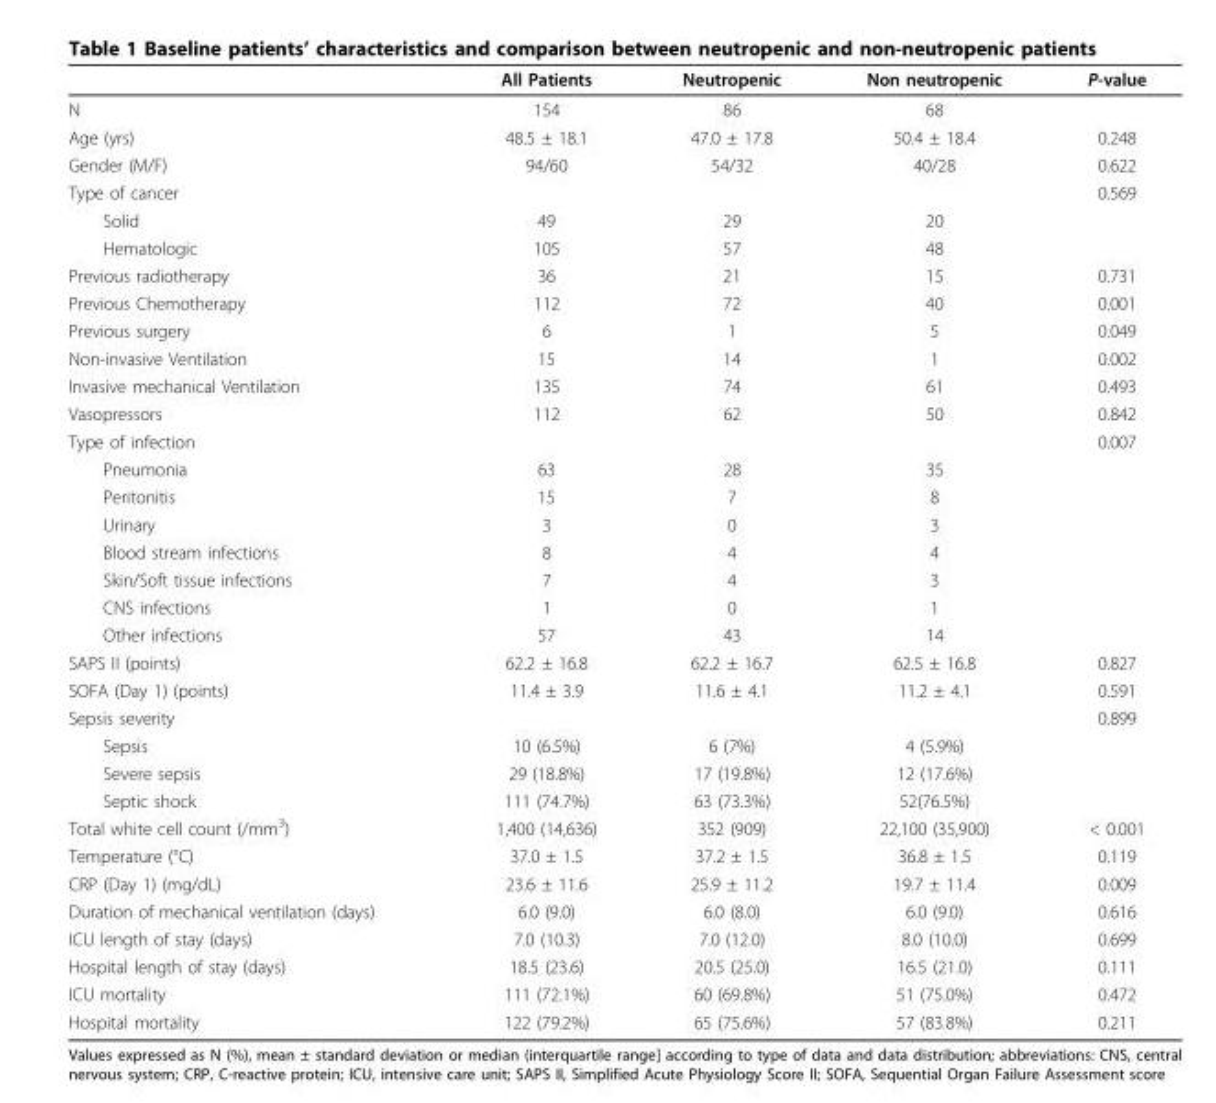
<table><thead><tr><td></td><td>All Patients</td><td>Neutropenic</td><td>Non neutropenic</td><td>P-value</td></tr></thead><tbody><tr><td>N</td><td>154</td><td>86</td><td>68</td><td></td></tr><tr><td>Age (yrs)</td><td>48.5 ± 18.1</td><td>47.0 ± 17.8</td><td>50.4 ± 18.4</td><td>0.248</td></tr><tr><td>Gender (M/F)</td><td>94/60</td><td>54/32</td><td>40/28</td><td>0.622</td></tr><tr><td>Type of cancer</td><td></td><td></td><td></td><td>0.569</td></tr><tr><td>Solid</td><td>49</td><td>29</td><td>20</td><td></td></tr><tr><td>Hematologic</td><td>105</td><td>57</td><td>48</td><td></td></tr><tr><td>Previous radiotherapy</td><td>36</td><td>21</td><td>15</td><td>0.731</td></tr><tr><td>Previous Chemotherapy</td><td>112</td><td>72</td><td>40</td><td>0.001</td></tr><tr><td>Previous surgery</td><td>6</td><td>1</td><td>5</td><td>0.049</td></tr><tr><td>Non-invasive Ventilation</td><td>15</td><td>14</td><td>1</td><td>0.002</td></tr><tr><td>Invasive mechanical Ventilation</td><td>135</td><td>74</td><td>61</td><td>0.493</td></tr><tr><td>Vasopressors</td><td>112</td><td>62</td><td>50</td><td>0.842</td></tr><tr><td>Type of infection</td><td></td><td></td><td></td><td>0.007</td></tr><tr><td>Pneumonia</td><td>63</td><td>28</td><td>35</td><td></td></tr><tr><td>Peritonitis</td><td>15</td><td>7</td><td>8</td><td></td></tr><tr><td>Urinary</td><td>3</td><td>0</td><td>3</td><td></td></tr><tr><td>Blood stream infections</td><td>8</td><td>4</td><td>4</td><td></td></tr><tr><td>Skin/Soft tissue infections</td><td>7</td><td>4</td><td>3</td><td></td></tr><tr><td>CNS infections</td><td>1</td><td>0</td><td>1</td><td></td></tr><tr><td>Other infections</td><td>57</td><td>43</td><td>14</td><td></td></tr><tr><td>SAPS II (points)</td><td>62.2 ± 16.8</td><td>62.2 ± 16.7</td><td>62.5 ± 16.8</td><td>0.827</td></tr><tr><td>SOFA (Day 1) (points)</td><td>11.4 ± 3.9</td><td>11.6 ± 4.1</td><td>11.2 ± 4.1</td><td>0.591</td></tr><tr><td>Sepsis severity</td><td></td><td></td><td></td><td>0.899</td></tr><tr><td>Sepsis</td><td>10 (6.5%)</td><td>6 (7%)</td><td>4 (5.9%)</td><td></td></tr><tr><td>Severe sepsis</td><td>29 (18.8%)</td><td>17 (19.8%)</td><td>12 (17.6%)</td><td></td></tr><tr><td>Septic shock</td><td>111 (74.7%)</td><td>63 (73.3%)</td><td>52(76.5%)</td><td></td></tr><tr><td>Total white cell count (/mm<sup>3</sup>)</td><td>1,400 (14,636)</td><td>352 (909)</td><td>22,100 (35,900)</td><td>&lt; 0.001</td></tr><tr><td>Temperature (°C)</td><td>37.0 ± 1.5</td><td>37.2 ± 1.5</td><td>36.8 ± 1.5</td><td>0.119</td></tr><tr><td>CRP (Day 1) (mg/dL)</td><td>23.6 ± 11.6</td><td>25.9 ± 11.2</td><td>19.7 ± 11.4</td><td>0.009</td></tr><tr><td>Duration of mechanical ventilation (days)</td><td>6.0 (9.0)</td><td>6.0 (8.0)</td><td>6.0 (9.0)</td><td>0.616</td></tr><tr><td>ICU length of stay (days)</td><td>7.0 (10.3)</td><td>7.0 (12.0)</td><td>8.0 (10.0)</td><td>0.699</td></tr><tr><td>Hospital length of stay (days)</td><td>18.5 (23.6)</td><td>20.5 (25.0)</td><td>16.5 (21.0)</td><td>0.111</td></tr><tr><td>ICU mortality</td><td>111 (72.1%)</td><td>60 (69.8%)</td><td>51 (75.0%)</td><td>0.472</td></tr><tr><td>Hospital mortality</td><td>122 (79.2%)</td><td>65 (75.6%)</td><td>57 (83.8%)</td><td>0.211</td></tr></tbody></table>